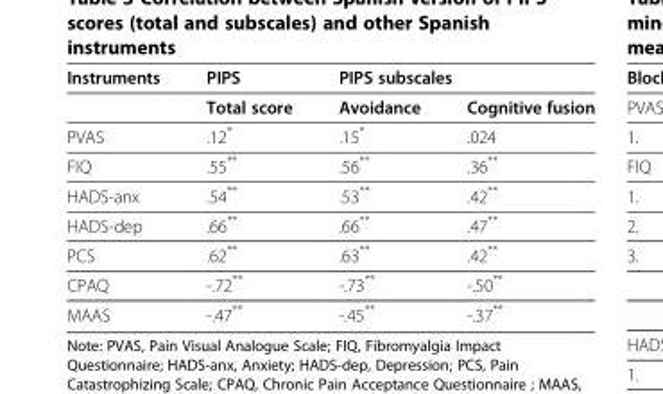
<table><thead><tr><td rowspan="2">Instruments</td><td rowspan="2">PIPS Total score</td><td colspan="2">PIPS subscales</td></tr><tr><td>Avoidance</td><td>Cognitive fusion</td></tr></thead><tbody><tr><td>PVAS</td><td>.12*</td><td>.15*</td><td>.024</td></tr><tr><td>FIQ</td><td>.55**</td><td>.56**</td><td>.36**</td></tr><tr><td>HADS-anx</td><td>.54**</td><td>.53**</td><td>.42**</td></tr><tr><td>HADS-dep</td><td>.66**</td><td>.66**</td><td>.47**</td></tr><tr><td>PCS</td><td>.62**</td><td>.63**</td><td>.42**</td></tr><tr><td>CPAQ</td><td>-.72**</td><td>-.73**</td><td>-.50**</td></tr><tr><td>MAAS</td><td>-.47**</td><td>-.45**</td><td>-.37**</td></tr></tbody></table>